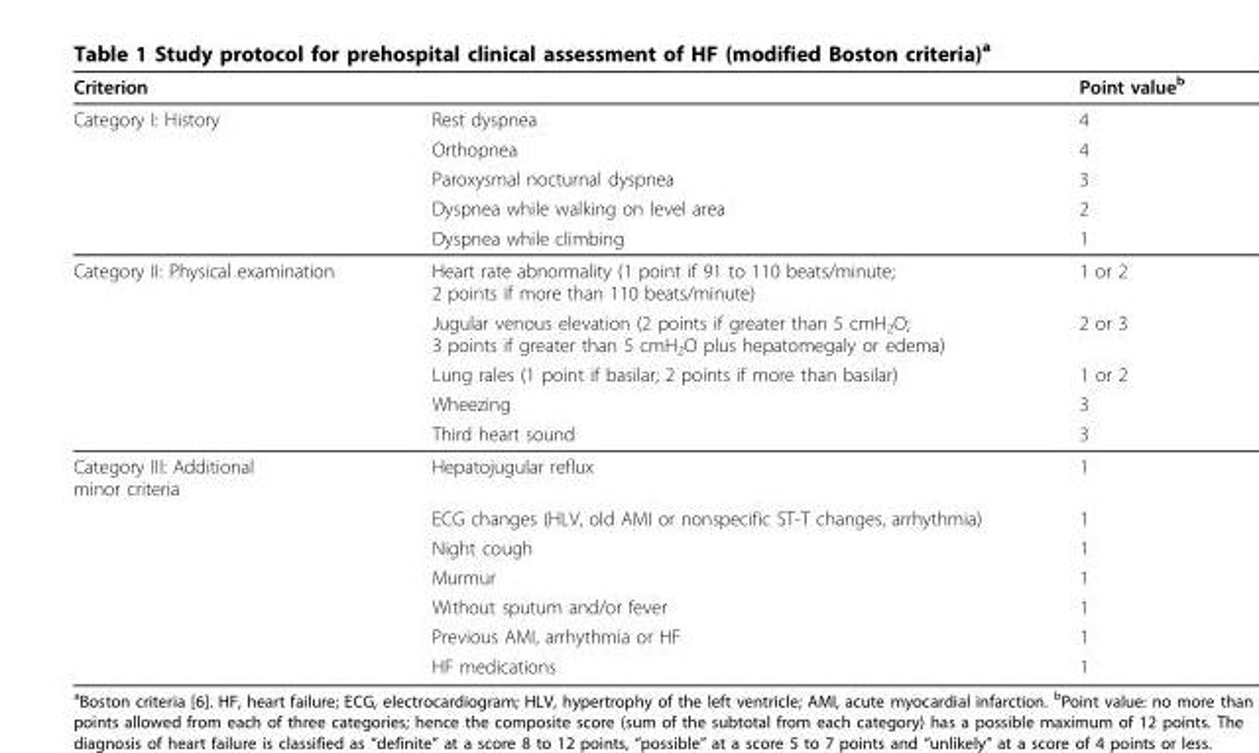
<table><thead><tr><td>Criterion</td><td></td><td>Point value<sup>b</sup></td></tr></thead><tbody><tr><td rowspan="5">Category I: History</td><td>Rest dyspnea</td><td>4</td></tr><tr><td>Orthopnea</td><td>4</td></tr><tr><td>Paroxysmal nocturnal dyspnea</td><td>3</td></tr><tr><td>Dyspnea while walking on level area</td><td>2</td></tr><tr><td>Dyspnea while climbing</td><td>1</td></tr><tr><td rowspan="5">Category II: Physical examination</td><td>Heart rate abnormality (1 point if 91 to 110 beats/minute; 2 points if more than 110 beats/minute)</td><td>1 or 2</td></tr><tr><td>Jugular venous elevation (2 points if greater than 5 cmH<sub>2</sub>O; 3 points if greater than 5 cmH<sub>2</sub>O plus hepatomegaly or edema)</td><td>2 or 3</td></tr><tr><td>Lung rales (1 point if basilar; 2 points if more than basilar)</td><td>1 or 2</td></tr><tr><td>Wheezing</td><td>3</td></tr><tr><td>Third heart sound</td><td>3</td></tr><tr><td rowspan="7">Category III: Additional minor criteria</td><td>Hepatojugular reflux</td><td>1</td></tr><tr><td>ECG changes (HLV, old AMI or nonspecific ST-T changes, arrhythmia)</td><td>1</td></tr><tr><td>Night cough</td><td>1</td></tr><tr><td>Murmur</td><td>1</td></tr><tr><td>Without sputum and/or fever</td><td>1</td></tr><tr><td>Previous AMI, arrhythmia or HF</td><td>1</td></tr><tr><td>HF medications</td><td>1</td></tr></tbody></table>